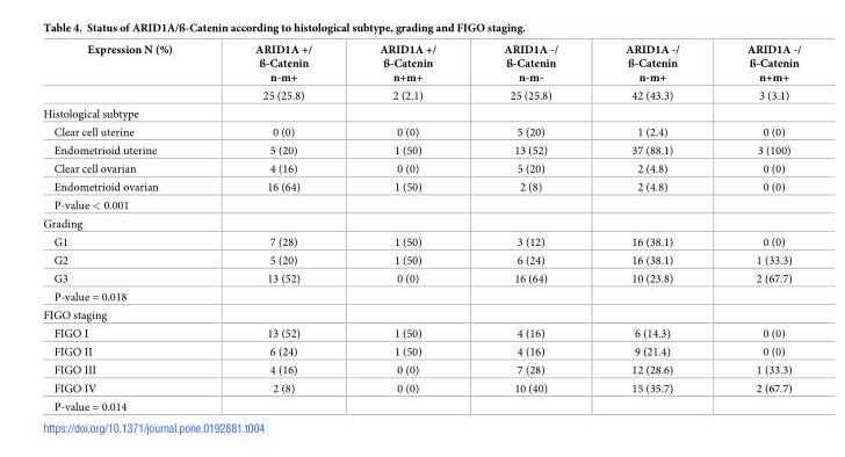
<table><thead><tr><td>Expression N (%)</td><td>ARID1A +/ ß-Catenin n-m+</td><td>ARID1A +/ ß-Catenin n+m+</td><td>ARID1A -/ ß-Catenin n-m-</td><td>ARID1A -/ ß-Catenin n-m+</td><td>ARID1A -/ ß-Catenin n+m+</td></tr></thead><tbody><tr><td></td><td>25 (25.8)</td><td>2 (2.1)</td><td>25 (25.8)</td><td>42 (43.3)</td><td>3 (3.1)</td></tr><tr><td colspan="6">Histological subtype</td></tr><tr><td>Clear cell uterine</td><td>0 (0)</td><td>0 (0)</td><td>5 (20)</td><td>1 (2.4)</td><td>0 (0)</td></tr><tr><td>Endometrioid uterine</td><td>5 (20)</td><td>1 (50)</td><td>13 (52)</td><td>37 (88.1)</td><td>3 (100)</td></tr><tr><td>Clear cell ovarian</td><td>4 (16)</td><td>0 (0)</td><td>5 (20)</td><td>2 (4.8)</td><td>0 (0)</td></tr><tr><td>Endometrioid ovarian</td><td>16 (64)</td><td>1 (50)</td><td>2 (8)</td><td>2 (4.8)</td><td>0 (0)</td></tr><tr><td colspan="6">P-value &lt; 0.001</td></tr><tr><td colspan="6">Grading</td></tr><tr><td>G1</td><td>7 (28)</td><td>1 (50)</td><td>3 (12)</td><td>16 (38.1)</td><td>0 (0)</td></tr><tr><td>G2</td><td>5 (20)</td><td>1 (50)</td><td>6 (24)</td><td>16 (38.1)</td><td>1 (33.3)</td></tr><tr><td>G3</td><td>13 (52)</td><td>0 (0)</td><td>16 (64)</td><td>10 (23.8)</td><td>2 (67.7)</td></tr><tr><td colspan="6">P-value = 0.018</td></tr><tr><td colspan="6">FIGO staging</td></tr><tr><td>FIGO I</td><td>13 (52)</td><td>1 (50)</td><td>4 (16)</td><td>6 (14.3)</td><td>0 (0)</td></tr><tr><td>FIGO II</td><td>6 (24)</td><td>1 (50)</td><td>4 (16)</td><td>9 (21.4)</td><td>0 (0)</td></tr><tr><td>FIGO III</td><td>4 (16)</td><td>0 (0)</td><td>7 (28)</td><td>12 (28.6)</td><td>1 (33.3)</td></tr><tr><td>FIGO IV</td><td>2 (8)</td><td>0 (0)</td><td>10 (40)</td><td>15 (35.7)</td><td>2 (67.7)</td></tr><tr><td>P-value = 0.014</td><td></td><td></td><td></td><td></td><td></td></tr></tbody></table>